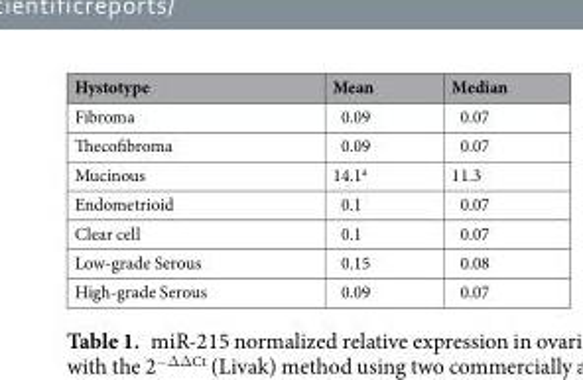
<table><thead><tr><td>Hystotype</td><td>Mean</td><td>Median</td></tr></thead><tbody><tr><td>Fibroma</td><td>0.09</td><td>0.07</td></tr><tr><td>Thecofibroma</td><td>0.09</td><td>0.07</td></tr><tr><td>Mucinous</td><td>14.1<sup>a</sup></td><td>11.3</td></tr><tr><td>Endometrioid</td><td>0.1</td><td>0.07</td></tr><tr><td>Clear cell</td><td>0.1</td><td>0.07</td></tr><tr><td>Low-grade Serous</td><td>0.15</td><td>0.08</td></tr><tr><td>High-grade Serous</td><td>0.09</td><td>0.07</td></tr></tbody></table>